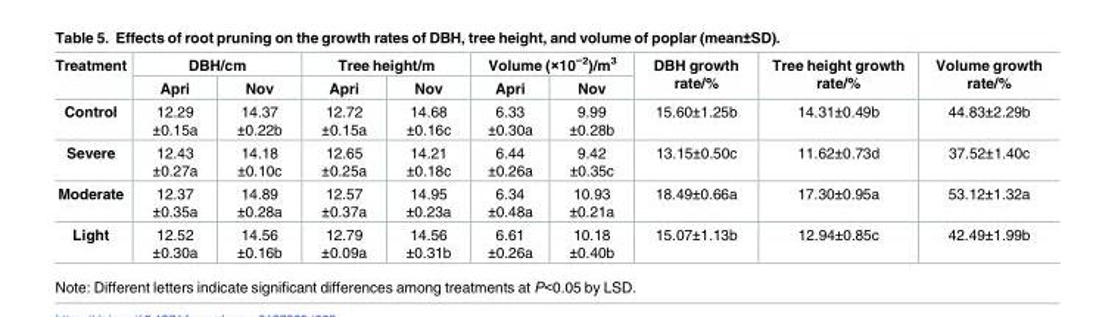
<table><thead><tr><td rowspan="2">Treatment</td><td colspan="2">DBH/cm</td><td colspan="2">Tree height/m</td><td colspan="2">Volume (×10<sup>−2</sup>)/m<sup>3</sup></td><td rowspan="2">DBH growth rate/%</td><td rowspan="2">Tree height growth rate/%</td><td rowspan="2">Volume growth rate/%</td></tr><tr><td>Apri</td><td>Nov</td><td>Apri</td><td>Nov</td><td>Apri</td><td>Nov</td></tr></thead><tbody><tr><td>Control</td><td>12.29 ±0.15a</td><td>14.37 ±0.22b</td><td>12.72 ±0.15a</td><td>14.68 ±0.16c</td><td>6.33 ±0.30a</td><td>9.99 ±0.28b</td><td>15.60±1.25b</td><td>14.31±0.49b</td><td>44.83±2.29b</td></tr><tr><td>Severe</td><td>12.43 ±0.27a</td><td>14.18 ±0.10c</td><td>12.65 ±0.25a</td><td>14.21 ±0.18c</td><td>6.44 ±0.26a</td><td>9.42 ±0.35c</td><td>13.15±0.50c</td><td>11.62±0.73d</td><td>37.52±1.40c</td></tr><tr><td>Moderate</td><td>12.37 ±0.35a</td><td>14.89 ±0.28a</td><td>12.57 ±0.37a</td><td>14.95 ±0.23a</td><td>6.34 ±0.48a</td><td>10.93 ±0.21a</td><td>18.49±0.66a</td><td>17.30±0.95a</td><td>53.12±1.32a</td></tr><tr><td>Light</td><td>12.52 ±0.30a</td><td>14.56 ±0.16b</td><td>12.79 ±0.09a</td><td>14.56 ±0.31b</td><td>6.61 ±0.26a</td><td>10.18 ±0.40b</td><td>15.07±1.13b</td><td>12.94±0.85c</td><td>42.49±1.99b</td></tr></tbody></table>